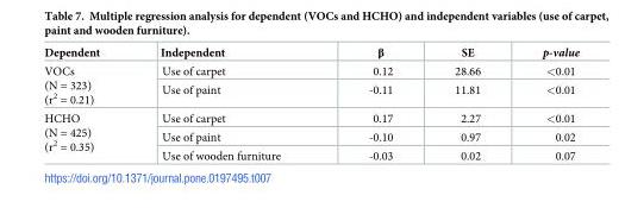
<table><thead><tr><td>Dependent</td><td>Independent</td><td>β</td><td>SE</td><td>p-value</td></tr></thead><tbody><tr><td rowspan="2">VOCs (N = 323) (r<sup>2</sup> = 0.21)</td><td>Use of carpet</td><td>0.12</td><td>28.66</td><td>&lt;0.01</td></tr><tr><td>Use of paint</td><td>-0.11</td><td>11.81</td><td>&lt;0.01</td></tr><tr><td rowspan="3">HCHO (N = 425) (r<sup>2</sup> = 0.35)</td><td>Use of carpet</td><td>0.17</td><td>2.27</td><td>&lt;0.01</td></tr><tr><td>Use of paint</td><td>-0.10</td><td>0.97</td><td>0.02</td></tr><tr><td>Use of wooden furniture</td><td>-0.03</td><td>0.02</td><td>0.07</td></tr></tbody></table>